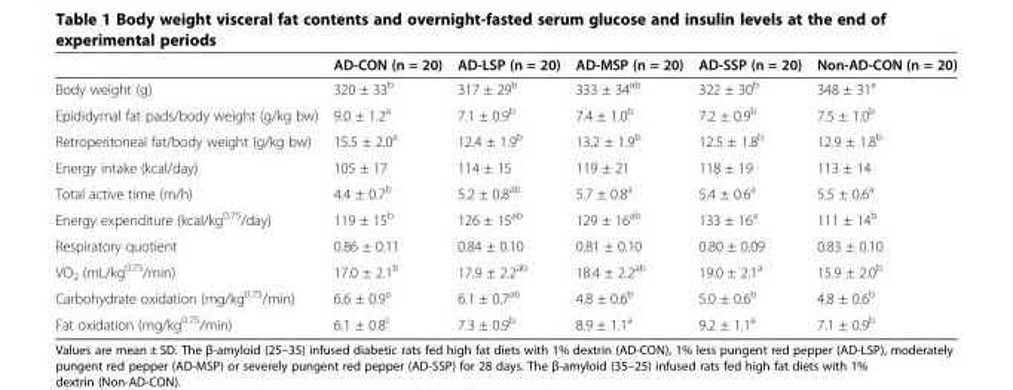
<table><thead><tr><td></td><td>AD-CON (n = 20)</td><td>AD-LSP (n = 20)</td><td>AD-MSP (n = 20)</td><td>AD-SSP (n = 20)</td><td>Non-AD-CON (n = 20)</td></tr></thead><tbody><tr><td>Body weight (g)</td><td>320 ± 33<sup>b</sup></td><td>317 ± 29<sup>b</sup></td><td>333 ± 34<sup>ab</sup></td><td>322 ± 30<sup>b</sup></td><td>348 ± 31<sup>a</sup></td></tr><tr><td>Epididymal fat pads/body weight (g/kg bw)</td><td>9.0 ± 1.2<sup>a</sup></td><td>7.1 ± 0.9<sup>b</sup></td><td>7.4 ± 1.0<sup>b</sup></td><td>7.2 ± 0.9<sup>b</sup></td><td>7.5 ± 1.0<sup>b</sup></td></tr><tr><td>Retroperitoneal fat/body weight (g/kg bw)</td><td>15.5 ± 2.0<sup>a</sup></td><td>12.4 ± 1.9<sup>b</sup></td><td>13.2 ± 1.9<sup>b</sup></td><td>12.5 ± 1.8<sup>b</sup></td><td>12.9 ± 1.8<sup>b</sup></td></tr><tr><td>Energy intake (kcal/day)</td><td>105 ± 17</td><td>114 ± 15</td><td>119 ± 21</td><td>118 ± 19</td><td>113 ± 14</td></tr><tr><td>Total active time (m/h)</td><td>4.4 ± 0.7<sup>b</sup></td><td>5.2 ± 0.8<sup>ab</sup></td><td>5.7 ± 0.8<sup>a</sup></td><td>5.4 ± 0.6<sup>a</sup></td><td>5.5 ± 0.6<sup>a</sup></td></tr><tr><td>Energy expenditure (kcal/kg<sup>0.75</sup>/day)</td><td>119 ± 15<sup>b</sup></td><td>126 ± 15<sup>ab</sup></td><td>129 ± 16<sup>ab</sup></td><td>133 ± 16<sup>a</sup></td><td>111 ± 14<sup>b</sup></td></tr><tr><td>Respiratory quotient</td><td>0.86 ± 0.11</td><td>0.84 ± 0.10</td><td>0.81 ± 0.10</td><td>0.80 ± 0.09</td><td>0.83 ± 0.10</td></tr><tr><td>VO<sub>2</sub> (mL/kg<sup>0.75</sup>/min)</td><td>17.0 ± 2.1<sup>b</sup></td><td>17.9 ± 2.2<sup>ab</sup></td><td>18.4 ± 2.2<sup>ab</sup></td><td>19.0 ± 2.1<sup>a</sup></td><td>15.9 ± 2.0<sup>b</sup></td></tr><tr><td>Carbohydrate oxidation (mg/kg<sup>0.75</sup>/min)</td><td>6.6 ± 0.9<sup>a</sup></td><td>6.1 ± 0.7<sup>ab</sup></td><td>4.8 ± 0.6<sup>b</sup></td><td>5.0 ± 0.6<sup>b</sup></td><td>4.8 ± 0.6<sup>b</sup></td></tr><tr><td>Fat oxidation (mg/kg<sup>0.75</sup>/min)</td><td>6.1 ± 0.8<sup>c</sup></td><td>7.3 ± 0.9<sup>b</sup></td><td>8.9 ± 1.1<sup>a</sup></td><td>9.2 ± 1.1<sup>a</sup></td><td>7.1 ± 0.9<sup>b</sup></td></tr></tbody></table>